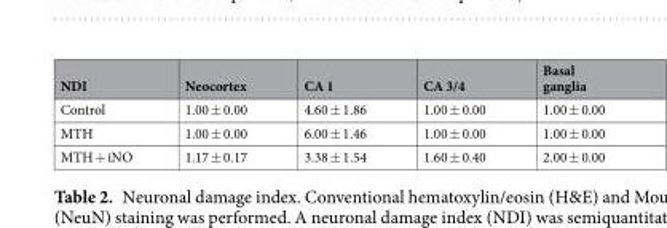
<table><thead><tr><td>NDI</td><td>Neocortex</td><td>CA 1</td><td>CA 3/4</td><td>Basal ganglia</td></tr></thead><tbody><tr><td>Control</td><td>1.00 ± 0.00</td><td>4.60 ± 1.86</td><td>1.00 ± 0.00</td><td>1.00 ± 0.00</td></tr><tr><td>MTH</td><td>1.00 ± 0.00</td><td>6.00 ± 1.46</td><td>1.00 ± 0.00</td><td>1.00 ± 0.00</td></tr><tr><td>MTH + iNO</td><td>1.17 ± 0.17</td><td>3.38 ± 1.54</td><td>1.60 ± 0.40</td><td>2.00 ± 0.00</td></tr></tbody></table>